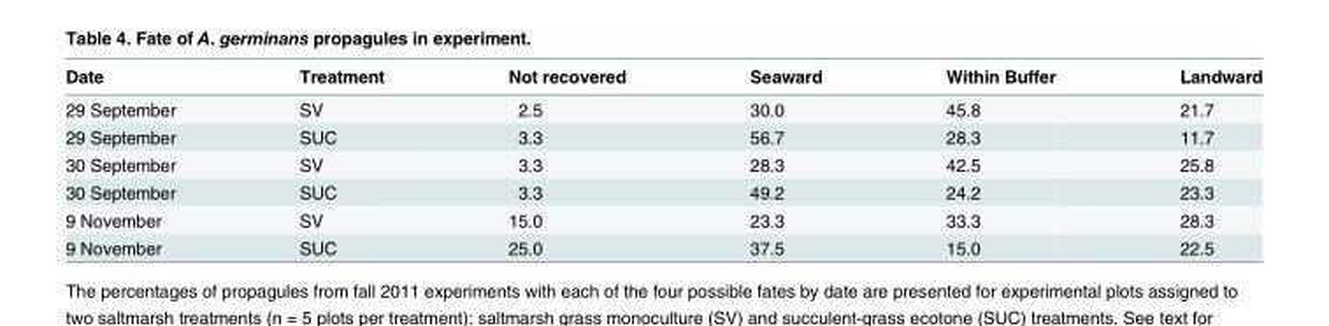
<table><thead><tr><td>Date</td><td>Treatment</td><td>Not recovered</td><td>Seaward</td><td>Within Buffer</td><td>Landward</td></tr></thead><tbody><tr><td>29 September</td><td>SV</td><td>2.5</td><td>30.0</td><td>45.8</td><td>21.7</td></tr><tr><td>29 September</td><td>SUC</td><td>3.3</td><td>56.7</td><td>28.3</td><td>11.7</td></tr><tr><td>30 September</td><td>SV</td><td>3.3</td><td>28.3</td><td>42.5</td><td>25.8</td></tr><tr><td>30 September</td><td>SUC</td><td>3.3</td><td>49.2</td><td>24.2</td><td>23.3</td></tr><tr><td>9 November</td><td>SV</td><td>15.0</td><td>23.3</td><td>33.3</td><td>28.3</td></tr><tr><td>9 November</td><td>SUC</td><td>25.0</td><td>37.5</td><td>15.0</td><td>22.5</td></tr></tbody></table>